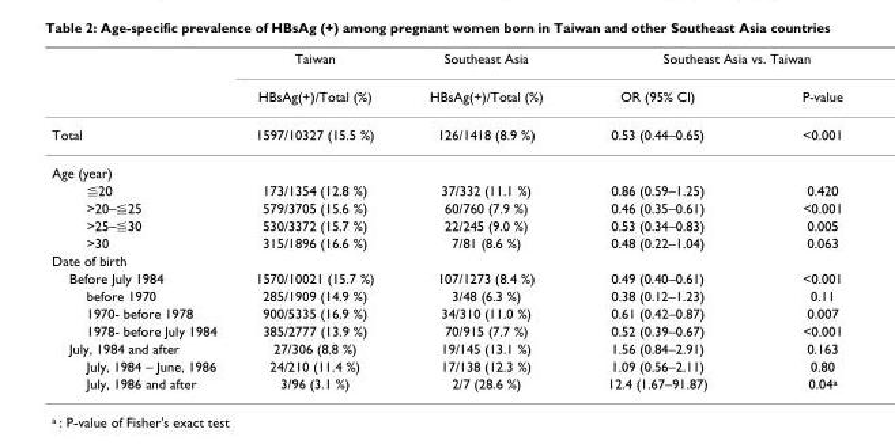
<table><thead><tr><td rowspan="2"></td><td rowspan="2">Taiwan HBsAg(+)/Total (%)</td><td rowspan="2">Southeast Asia HBsAg(+)/Total (%)</td><td colspan="2">Southeast Asia vs. Taiwan</td></tr><tr><td>OR (95% CI)</td><td>P-value</td></tr></thead><tbody><tr><td>Total</td><td>1597/10327 (15.5 %)</td><td>126/1418 (8.9 %)</td><td>0.53 (0.44–0.65)</td><td>&lt;0.001</td></tr><tr><td colspan="5">Age (year)</td></tr><tr><td>≦20</td><td>173/1354 (12.8 %)</td><td>37/332 (11.1 %)</td><td>0.86 (0.59–1.25)</td><td>0.420</td></tr><tr><td>&gt;20–≦25</td><td>579/3705 (15.6 %)</td><td>60/760 (7.9 %)</td><td>0.46 (0.35–0.61)</td><td>&lt;0.001</td></tr><tr><td>&gt;25–≦30</td><td>530/3372 (15.7 %)</td><td>22/245 (9.0 %)</td><td>0.53 (0.34–0.83)</td><td>0.005</td></tr><tr><td>&gt;30</td><td>315/1896 (16.6 %)</td><td>7/81 (8.6 %)</td><td>0.48 (0.22–1.04)</td><td>0.063</td></tr><tr><td colspan="5">Date of birth</td></tr><tr><td>Before July 1984</td><td>1570/10021 (15.7 %)</td><td>107/1273 (8.4 %)</td><td>0.49 (0.40–0.61)</td><td>&lt;0.001</td></tr><tr><td>before 1970</td><td>285/1909 (14.9 %)</td><td>3/48 (6.3 %)</td><td>0.38 (0.12–1.23)</td><td>0.11</td></tr><tr><td>1970- before 1978</td><td>900/5335 (16.9 %)</td><td>34/310 (11.0 %)</td><td>0.61 (0.42–0.87)</td><td>0.007</td></tr><tr><td>1978- before July 1984</td><td>385/2777 (13.9 %)</td><td>70/915 (7.7 %)</td><td>0.52 (0.39–0.67)</td><td>&lt;0.001</td></tr><tr><td>July, 1984 and after</td><td>27/306 (8.8 %)</td><td>19/145 (13.1 %)</td><td>1.56 (0.84–2.91)</td><td>0.163</td></tr><tr><td>July, 1984 – June, 1986</td><td>24/210 (11.4 %)</td><td>17/138 (12.3 %)</td><td>1.09 (0.56–2.11)</td><td>0.80</td></tr><tr><td>July, 1986 and after</td><td>3/96 (3.1 %)</td><td>2/7 (28.6 %)</td><td>12.4 (1.67–91.87)</td><td>0.04<sup>a</sup></td></tr></tbody></table>